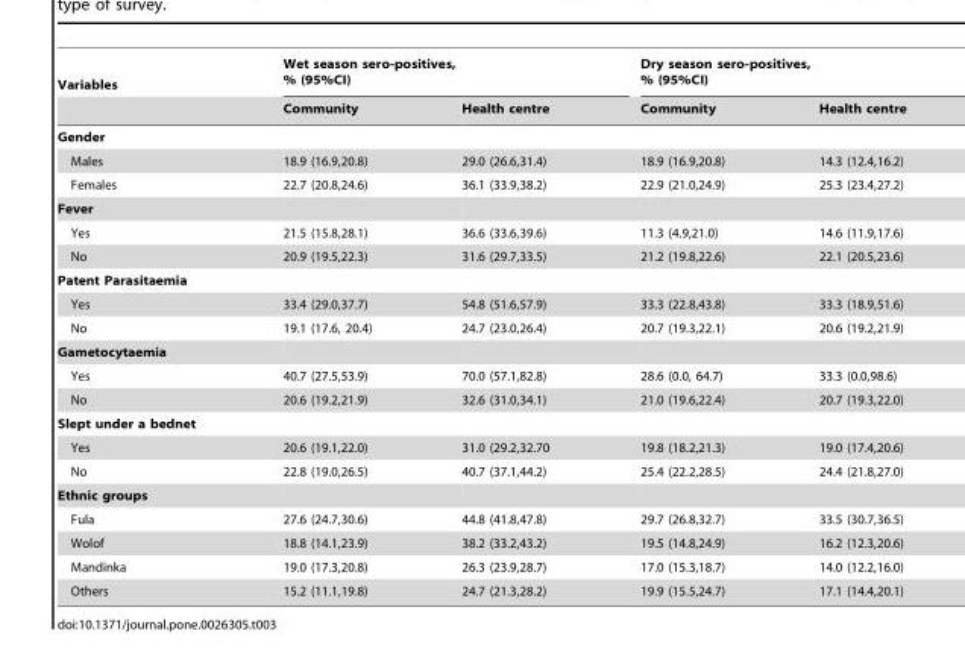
<table><thead><tr><td rowspan="2">Variables</td><td colspan="2">Wet season sero-positives, % (95%CI)</td><td colspan="2">Dry season sero-positives, % (95%CI)</td></tr><tr><td>Community</td><td>Health centre</td><td>Community</td><td>Health centre</td></tr></thead><tbody><tr><td colspan="5">Gender</td></tr><tr><td>Males</td><td>18.9 (16.9,20.8)</td><td>29.0 (26.6,31.4)</td><td>18.9 (16.9,20.8)</td><td>14.3 (12.4,16.2)</td></tr><tr><td>Females</td><td>22.7 (20.8,24.6)</td><td>36.1 (33.9,38.2)</td><td>22.9 (21.0,24.9)</td><td>25.3 (23.4,27.2)</td></tr><tr><td colspan="5">Fever</td></tr><tr><td>Yes</td><td>21.5 (15.8,28.1)</td><td>36.6 (33.6,39.6)</td><td>11.3 (4.9,21.0)</td><td>14.6 (11.9,17.6)</td></tr><tr><td>No</td><td>20.9 (19.5,22.3)</td><td>31.6 (29.7,33.5)</td><td>21.2 (19.8,22.6)</td><td>22.1 (20.5,23.6)</td></tr><tr><td colspan="5">Patent Parasitaemia</td></tr><tr><td>Yes</td><td>33.4 (29.0,37.7)</td><td>54.8 (51.6,57.9)</td><td>33.3 (22.8,43.8)</td><td>33.3 (18.9,51.6)</td></tr><tr><td>No</td><td>19.1 (17.6, 20.4)</td><td>24.7 (23.0,26.4)</td><td>20.7 (19.3,22.1)</td><td>20.6 (19.2,21.9)</td></tr><tr><td colspan="5">Gametocytaemia</td></tr><tr><td>Yes</td><td>40.7 (27.5,53.9)</td><td>70.0 (57.1,82.8)</td><td>28.6 (0.0, 64.7)</td><td>33.3 (0.0,98.6)</td></tr><tr><td>No</td><td>20.6 (19.2,21.9)</td><td>32.6 (31.0,34.1)</td><td>21.0 (19.6,22.4)</td><td>20.7 (19.3,22.0)</td></tr><tr><td colspan="5">Slept under a bednet</td></tr><tr><td>Yes</td><td>20.6 (19.1,22.0)</td><td>31.0 (29.2,32.70</td><td>19.8 (18.2,21.3)</td><td>19.0 (17.4,20.6)</td></tr><tr><td>No</td><td>22.8 (19.0,26.5)</td><td>40.7 (37.1,44.2)</td><td>25.4 (22.2,28.5)</td><td>24.4 (21.8,27.0)</td></tr><tr><td colspan="5">Ethnic groups</td></tr><tr><td>Fula</td><td>27.6 (24.7,30.6)</td><td>44.8 (41.8,47.8)</td><td>29.7 (26.8,32.7)</td><td>33.5 (30.7,36.5)</td></tr><tr><td>Wolof</td><td>18.8 (14.1,23.9)</td><td>38.2 (33.2,43.2)</td><td>19.5 (14.8,24.9)</td><td>16.2 (12.3,20.6)</td></tr><tr><td>Mandinka</td><td>19.0 (17.3,20.8)</td><td>26.3 (23.9,28.7)</td><td>17.0 (15.3,18.7)</td><td>14.0 (12.2,16.0)</td></tr><tr><td>Others</td><td>15.2 (11.1,19.8)</td><td>24.7 (21.3,28.2)</td><td>19.9 (15.5,24.7)</td><td>17.1 (14.4,20.1)</td></tr></tbody></table>